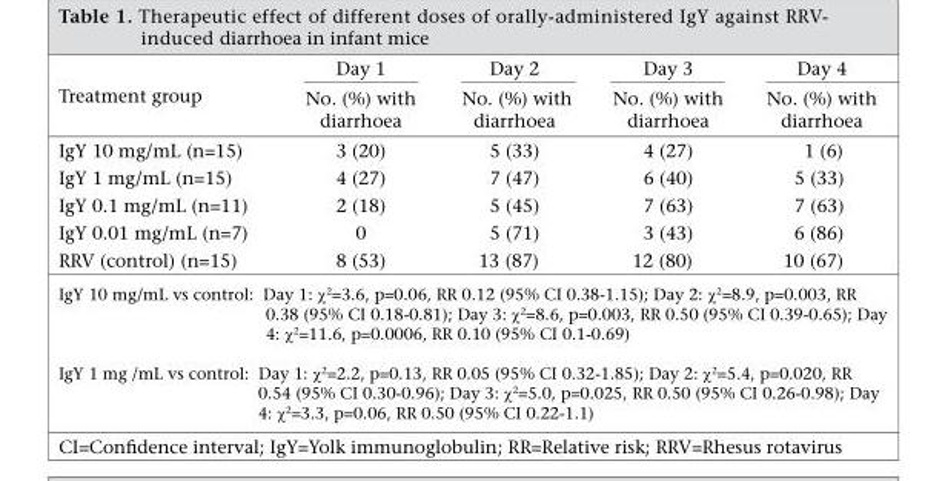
<table><thead><tr><td rowspan="2">Treatment group</td><td rowspan="2">Day 1 No. (%) with diarrhoea</td><td rowspan="2">Day 2 No. (%) with diarrhoea</td><td rowspan="2">Day 3 No. (%) with diarrhoea</td><td rowspan="2">Day 4 No. (%) with diarrhoea</td></tr><tr></tr></thead><tbody><tr><td>IgY 10 mg/mL (n=15)</td><td>3 (20)</td><td>5 (33)</td><td>4 (27)</td><td>1 (6)</td></tr><tr><td>IgY 1 mg/mL (n=15)</td><td>4 (27)</td><td>7 (47)</td><td>6 (40)</td><td>5 (33)</td></tr><tr><td>IgY 0.1 mg/mL (n=11)</td><td>2 (18)</td><td>5 (45)</td><td>7 (63)</td><td>7 (63)</td></tr><tr><td>IgY 0.01 mg/mL (n=7)</td><td>0</td><td>5 (71)</td><td>3 (43)</td><td>6 (86)</td></tr><tr><td>RRV (control) (n=15)</td><td>8 (53)</td><td>13 (87)</td><td>12 (80)</td><td>10 (67)</td></tr><tr><td colspan="5">IgY 10 mg/mL vs control: Day 1: χ<sup>2</sup>=3.6, p=0.06, RR 0.12 (95% CI 0.38-1.15); Day 2: χ<sup>2</sup>=8.9, p=0.003, RR 0.38 (95% CI 0.18-0.81); Day 3: χ<sup>2</sup>=8.6, p=0.003, RR 0.50 (95% CI 0.39-0.65); Day 4: χ<sup>2</sup>=11.6, p=0.0006, RR 0.10 (95% CI 0.1-0.69)</td></tr><tr><td colspan="5">IgY 1 mg /mL vs control: Day 1: χ<sup>2</sup>=2.2, p=0.13, RR 0.05 (95% CI 0.32-1.85); Day 2: χ<sup>2</sup>=5.4, p=0.020, RR 0.54 (95% CI 0.30-0.96); Day 3: χ<sup>2</sup>=5.0, p=0.025, RR 0.50 (95% CI 0.26-0.98); Day 4: χ<sup>2</sup>=3.3, p=0.06, RR 0.50 (95% CI 0.22-1.1)</td></tr></tbody></table>